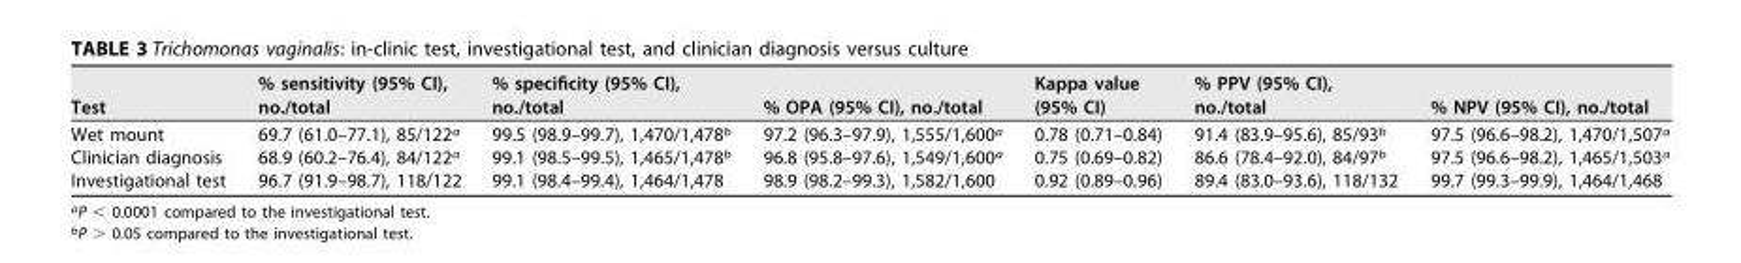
<table><thead><tr><td>Test</td><td>% sensitivity (95% CI), no./total</td><td>% specificity (95% CI), no./total</td><td>% OPA (95% CI), no./total</td><td>Kappa value (95% CI)</td><td>% PPV (95% CI), no./total</td><td>% NPV (95% CI), no./total</td></tr></thead><tbody><tr><td>Wet mount</td><td>69.7 (61.0–77.1), 85/122<sup>a</sup></td><td>99.5 (98.9–99.7), 1,470/1,478<sup>b</sup></td><td>97.2 (96.3–97.9), 1,555/1,600<sup>a</sup></td><td>0.78 (0.71–0.84)</td><td>91.4 (83.9–95.6), 85/93<sup>b</sup></td><td>97.5 (96.6–98.2), 1,470/1,507<sup>a</sup></td></tr><tr><td>Clinician diagnosis</td><td>68.9 (60.2–76.4), 84/122<sup>a</sup></td><td>99.1 (98.5–99.5), 1,465/1,478<sup>b</sup></td><td>96.8 (95.8–97.6), 1,549/1,600<sup>a</sup></td><td>0.75 (0.69–0.82)</td><td>86.6 (78.4–92.0), 84/97<sup>b</sup></td><td>97.5 (96.6–98.2), 1,465/1,503<sup>a</sup></td></tr><tr><td>Investigational test</td><td>96.7 (91.9–98.7), 118/122</td><td>99.1 (98.4–99.4), 1,464/1,478</td><td>98.9 (98.2–99.3), 1,582/1,600</td><td>0.92 (0.89–0.96)</td><td>89.4 (83.0–93.6), 118/132</td><td>99.7 (99.3–99.9), 1,464/1,468</td></tr></tbody></table>